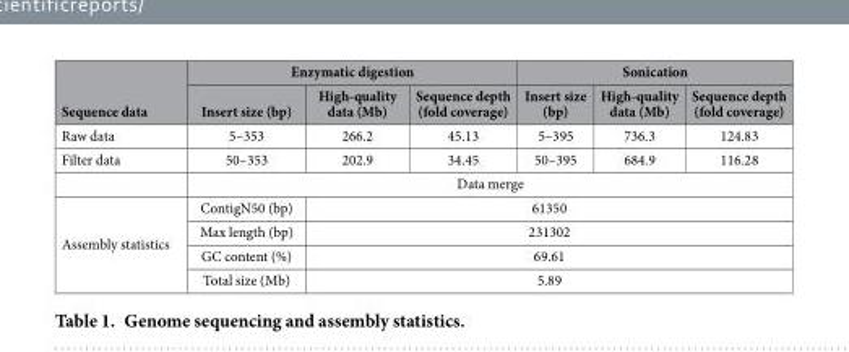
<table><thead><tr><td rowspan="2">Sequence data</td><td colspan="3">Enzymatic digestion</td><td colspan="3">Sonication</td></tr><tr><td>Insert size (bp)</td><td>High-quality data (Mb)</td><td>Sequence depth (fold coverage)</td><td>Insert size (bp)</td><td>High-quality data (Mb)</td><td>Sequence depth (fold coverage)</td></tr></thead><tbody><tr><td>Raw data</td><td>5–353</td><td>266.2</td><td>45.13</td><td>5–395</td><td>736.3</td><td>124.83</td></tr><tr><td rowspan="2">Filter data</td><td>50–353</td><td>202.9</td><td>34.45</td><td>50–395</td><td>684.9</td><td>116.28</td></tr><tr><td colspan="6">Data merge</td></tr><tr><td rowspan="4">Assembly statistics</td><td>ContigN50 (bp)</td><td colspan="5">61350</td></tr><tr><td>Max length (bp)</td><td colspan="5">231302</td></tr><tr><td>GC content (%)</td><td colspan="5">69.61</td></tr><tr><td>Total size (Mb)</td><td colspan="5">5.89</td></tr></tbody></table>